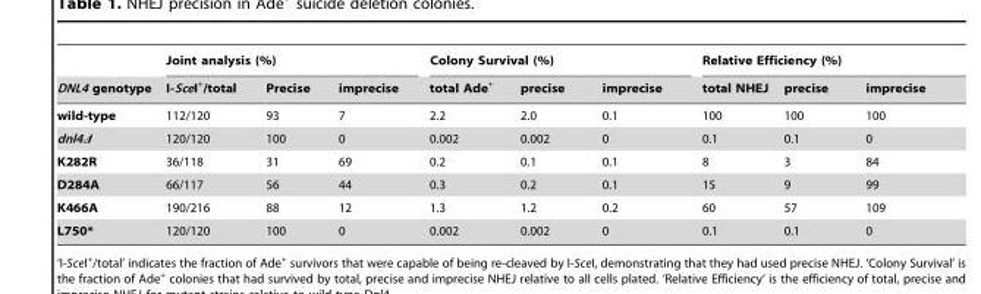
<table><thead><tr><td rowspan="2">DNL4 genotype</td><td colspan="3">Joint analysis (%)</td><td colspan="3">Colony Survival (%)</td><td colspan="3">Relative Efficiency (%)</td></tr><tr><td>I-SceI<sup>+</sup>/total</td><td>Precise</td><td>imprecise</td><td>total Ade<sup>+</sup></td><td>precise</td><td>imprecise</td><td>total NHEJ</td><td>precise</td><td>imprecise</td></tr></thead><tbody><tr><td>wild-type</td><td>112/120</td><td>93</td><td>7</td><td>2.2</td><td>2.0</td><td>0.1</td><td>100</td><td>100</td><td>100</td></tr><tr><td>dnl4Δ</td><td>120/120</td><td>100</td><td>0</td><td>0.002</td><td>0.002</td><td>0</td><td>0.1</td><td>0.1</td><td>0</td></tr><tr><td>K282R</td><td>36/118</td><td>31</td><td>69</td><td>0.2</td><td>0.1</td><td>0.1</td><td>8</td><td>3</td><td>84</td></tr><tr><td>D284A</td><td>66/117</td><td>56</td><td>44</td><td>0.3</td><td>0.2</td><td>0.1</td><td>15</td><td>9</td><td>99</td></tr><tr><td>K466A</td><td>190/216</td><td>88</td><td>12</td><td>1.3</td><td>1.2</td><td>0.2</td><td>60</td><td>57</td><td>109</td></tr><tr><td>L750*</td><td>120/120</td><td>100</td><td>0</td><td>0.002</td><td>0.002</td><td>0</td><td>0.1</td><td>0.1</td><td>0</td></tr></tbody></table>